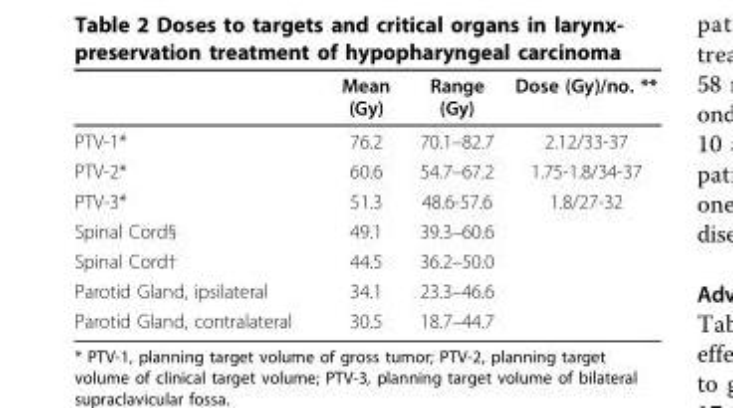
<table><thead><tr><td></td><td>Mean (Gy)</td><td>Range (Gy)</td><td>Dose (Gy)/no. **</td></tr></thead><tbody><tr><td>PTV-1*</td><td>76.2</td><td>70.1–82.7</td><td>2.12/33-37</td></tr><tr><td>PTV-2*</td><td>60.6</td><td>54.7–67.2</td><td>1.75-1.8/34-37</td></tr><tr><td>PTV-3*</td><td>51.3</td><td>48.6-57.6</td><td>1.8/27-32</td></tr><tr><td>Spinal Cord§</td><td>49.1</td><td>39.3–60.6</td><td></td></tr><tr><td>Spinal Cord†</td><td>44.5</td><td>36.2–50.0</td><td></td></tr><tr><td>Parotid Gland, ipsilateral</td><td>34.1</td><td>23.3–46.6</td><td></td></tr><tr><td>Parotid Gland, contralateral</td><td>30.5</td><td>18.7–44.7</td><td></td></tr></tbody></table>